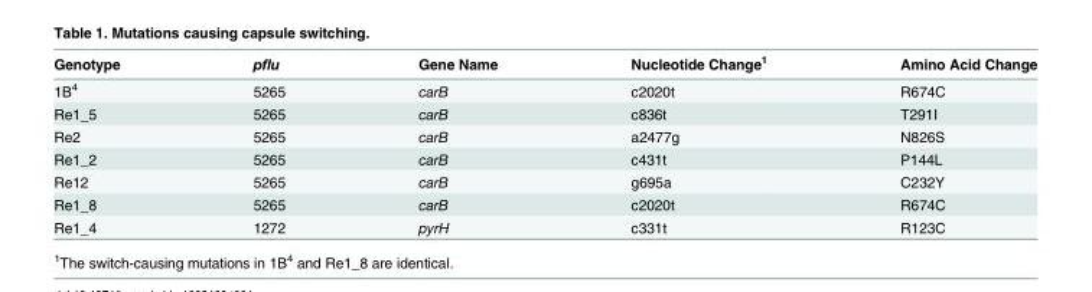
<table><thead><tr><td>Genotype</td><td>pflu</td><td>Gene Name</td><td>Nucleotide Change<sup>1</sup></td><td>Amino Acid Change</td></tr></thead><tbody><tr><td>1B<sup>4</sup></td><td>5265</td><td>carB</td><td>c2020t</td><td>R674C</td></tr><tr><td>Re1_5</td><td>5265</td><td>carB</td><td>c836t</td><td>T291I</td></tr><tr><td>Re2</td><td>5265</td><td>carB</td><td>a2477g</td><td>N826S</td></tr><tr><td>Re1_2</td><td>5265</td><td>carB</td><td>c431t</td><td>P144L</td></tr><tr><td>Re12</td><td>5265</td><td>carB</td><td>g695a</td><td>C232Y</td></tr><tr><td>Re1_8</td><td>5265</td><td>carB</td><td>c2020t</td><td>R674C</td></tr><tr><td>Re1_4</td><td>1272</td><td>pyrH</td><td>c331t</td><td>R123C</td></tr></tbody></table>